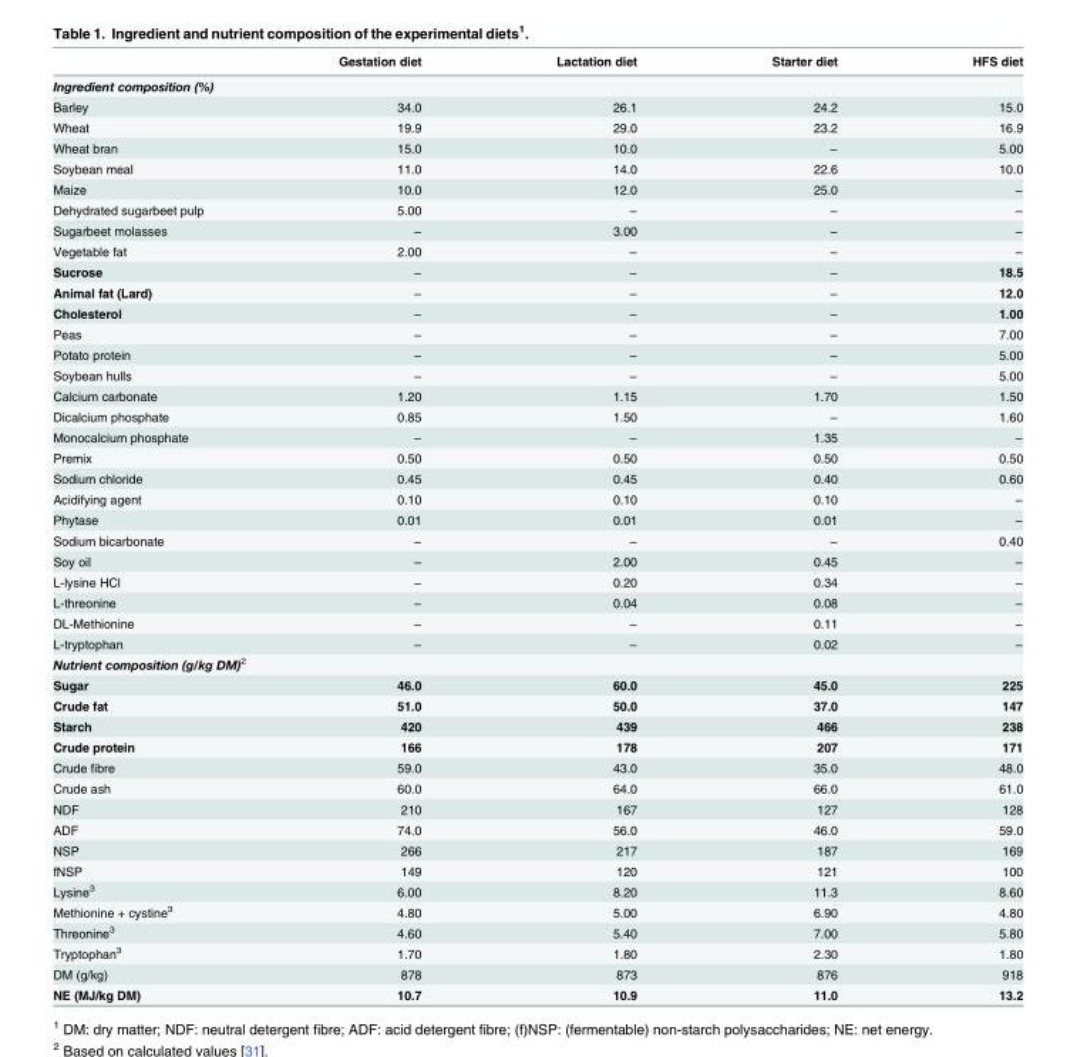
<table><thead><tr><td></td><td>Gestation diet</td><td>Lactation diet</td><td>Starter diet</td><td>HFS diet</td></tr></thead><tbody><tr><td colspan="5">Ingredient composition (%)</td></tr><tr><td>Barley</td><td>34.0</td><td>26.1</td><td>24.2</td><td>15.0</td></tr><tr><td>Wheat</td><td>19.9</td><td>29.0</td><td>23.2</td><td>16.9</td></tr><tr><td>Wheat bran</td><td>15.0</td><td>10.0</td><td>‒</td><td>5.00</td></tr><tr><td>Soybean meal</td><td>11.0</td><td>14.0</td><td>22.6</td><td>10.0</td></tr><tr><td>Maize</td><td>10.0</td><td>12.0</td><td>25.0</td><td>‒</td></tr><tr><td>Dehydrated sugarbeet pulp</td><td>5.00</td><td>‒</td><td>‒</td><td>‒</td></tr><tr><td>Sugarbeet molasses</td><td>‒</td><td>3.00</td><td>‒</td><td>‒</td></tr><tr><td>Vegetable fat</td><td>2.00</td><td>‒</td><td>‒</td><td>‒</td></tr><tr><td>Sucrose</td><td>‒</td><td>‒</td><td>‒</td><td>18.5</td></tr><tr><td>Animal fat (Lard)</td><td>‒</td><td>‒</td><td>‒</td><td>12.0</td></tr><tr><td>Cholesterol</td><td>‒</td><td>‒</td><td>‒</td><td>1.00</td></tr><tr><td>Peas</td><td>‒</td><td>‒</td><td>‒</td><td>7.00</td></tr><tr><td>Potato protein</td><td>‒</td><td>‒</td><td>‒</td><td>5.00</td></tr><tr><td>Soybean hulls</td><td>‒</td><td>‒</td><td>‒</td><td>5.00</td></tr><tr><td>Calcium carbonate</td><td>1.20</td><td>1.15</td><td>1.70</td><td>1.50</td></tr><tr><td>Dicalcium phosphate</td><td>0.85</td><td>1.50</td><td>‒</td><td>1.60</td></tr><tr><td>Monocalcium phosphate</td><td>‒</td><td>‒</td><td>1.35</td><td>‒</td></tr><tr><td>Premix</td><td>0.50</td><td>0.50</td><td>0.50</td><td>0.50</td></tr><tr><td>Sodium chloride</td><td>0.45</td><td>0.45</td><td>0.40</td><td>0.60</td></tr><tr><td>Acidifying agent</td><td>0.10</td><td>0.10</td><td>0.10</td><td>‒</td></tr><tr><td>Phytase</td><td>0.01</td><td>0.01</td><td>0.01</td><td>‒</td></tr><tr><td>Sodium bicarbonate</td><td>‒</td><td>‒</td><td>‒</td><td>0.40</td></tr><tr><td>Soy oil</td><td>‒</td><td>2.00</td><td>0.45</td><td>‒</td></tr><tr><td>L-lysine HCl</td><td>‒</td><td>0.20</td><td>0.34</td><td>‒</td></tr><tr><td>L-threonine</td><td>‒</td><td>0.04</td><td>0.08</td><td>‒</td></tr><tr><td>DL-Methionine</td><td>‒</td><td>‒</td><td>0.11</td><td>‒</td></tr><tr><td>L-tryptophan</td><td>‒</td><td>‒</td><td>0.02</td><td>‒</td></tr><tr><td colspan="5">Nutrient composition (g/kg DM)<sup>2</sup></td></tr><tr><td>Sugar</td><td>46.0</td><td>60.0</td><td>45.0</td><td>225</td></tr><tr><td>Crude fat</td><td>51.0</td><td>50.0</td><td>37.0</td><td>147</td></tr><tr><td>Starch</td><td>420</td><td>439</td><td>466</td><td>238</td></tr><tr><td>Crude protein</td><td>166</td><td>178</td><td>207</td><td>171</td></tr><tr><td>Crude fibre</td><td>59.0</td><td>43.0</td><td>35.0</td><td>48.0</td></tr><tr><td>Crude ash</td><td>60.0</td><td>64.0</td><td>66.0</td><td>61.0</td></tr><tr><td>NDF</td><td>210</td><td>167</td><td>127</td><td>128</td></tr><tr><td>ADF</td><td>74.0</td><td>56.0</td><td>46.0</td><td>59.0</td></tr><tr><td>NSP</td><td>266</td><td>217</td><td>187</td><td>169</td></tr><tr><td>fNSP</td><td>149</td><td>120</td><td>121</td><td>100</td></tr><tr><td>Lysine<sup>3</sup></td><td>6.00</td><td>8.20</td><td>11.3</td><td>8.60</td></tr><tr><td>Methionine + cystine<sup>3</sup></td><td>4.80</td><td>5.00</td><td>6.90</td><td>4.80</td></tr><tr><td>Threonine<sup>3</sup></td><td>4.60</td><td>5.40</td><td>7.00</td><td>5.80</td></tr><tr><td>Tryptophan<sup>3</sup></td><td>1.70</td><td>1.80</td><td>2.30</td><td>1.80</td></tr><tr><td>DM (g/kg)</td><td>878</td><td>873</td><td>876</td><td>918</td></tr><tr><td>NE (MJ/kg DM)</td><td>10.7</td><td>10.9</td><td>11.0</td><td>13.2</td></tr></tbody></table>